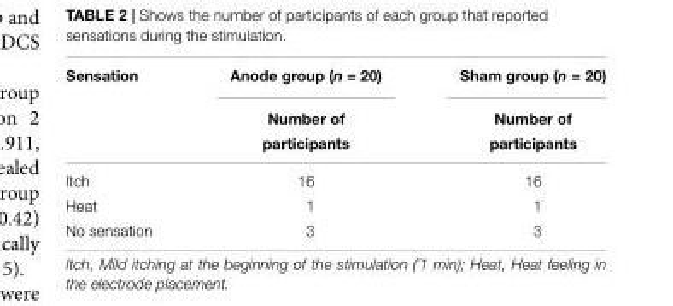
<table><thead><tr><td rowspan="3">Sensation</td><td rowspan="3">Anode group (n = 20) Number of participants</td><td rowspan="3">Sham group (n = 20) Number of participants</td></tr><tr></tr><tr></tr></thead><tbody><tr><td>Itch</td><td>16</td><td>16</td></tr><tr><td>Heat</td><td>1</td><td>1</td></tr><tr><td>No sensation</td><td>3</td><td>3</td></tr></tbody></table>